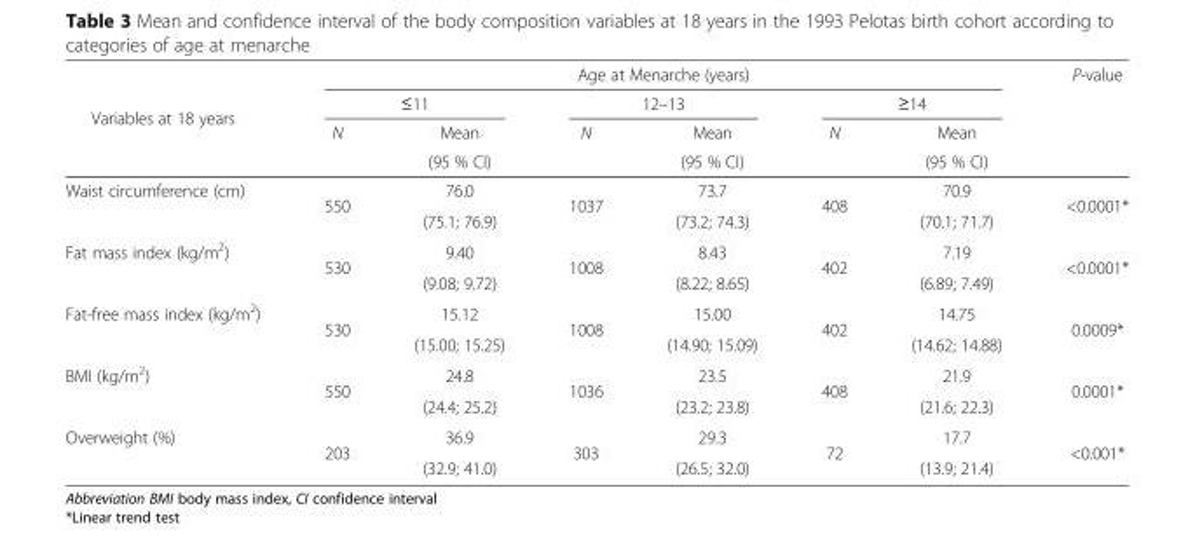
<table><thead><tr><td rowspan="4">Variables at 18 years</td><td colspan="6">Age at Menarche (years)</td><td rowspan="4">P-value</td></tr><tr><td colspan="2">≤11</td><td colspan="2">12–13</td><td colspan="2">≥14</td></tr><tr><td rowspan="2">N</td><td rowspan="2">Mean (95 % CI)</td><td rowspan="2">N</td><td rowspan="2">Mean (95 % CI)</td><td rowspan="2">N</td><td rowspan="2">Mean (95 % CI)</td></tr><tr></tr></thead><tbody><tr><td rowspan="2">Waist circumference (cm)</td><td rowspan="2">550</td><td>76.0</td><td rowspan="2">1037</td><td>73.7</td><td rowspan="2">408</td><td>70.9</td><td rowspan="2">&lt;0.0001*</td></tr><tr><td>(75.1; 76.9)</td><td>(73.2; 74.3)</td><td>(70.1; 71.7)</td></tr><tr><td rowspan="2">Fat mass index (kg/m<sup>2</sup>)</td><td rowspan="2">530</td><td>9.40</td><td rowspan="2">1008</td><td>8.43</td><td rowspan="2">402</td><td>7.19</td><td rowspan="2">&lt;0.0001*</td></tr><tr><td>(9.08; 9.72)</td><td>(8.22; 8.65)</td><td>(6.89; 7.49)</td></tr><tr><td rowspan="2">Fat-free mass index (kg/m<sup>2</sup>)</td><td rowspan="2">530</td><td>15.12</td><td rowspan="2">1008</td><td>15.00</td><td rowspan="2">402</td><td>14.75</td><td rowspan="2">0.0009*</td></tr><tr><td>(15.00; 15.25)</td><td>(14.90; 15.09)</td><td>(14.62; 14.88)</td></tr><tr><td rowspan="2">BMI (kg/m<sup>2</sup>)</td><td rowspan="2">550</td><td>24.8</td><td rowspan="2">1036</td><td>23.5</td><td rowspan="2">408</td><td>21.9</td><td rowspan="2">0.0001*</td></tr><tr><td>(24.4; 25.2)</td><td>(23.2; 23.8)</td><td>(21.6; 22.3)</td></tr><tr><td rowspan="2">Overweight (%)</td><td rowspan="2">203</td><td>36.9</td><td rowspan="2">303</td><td>29.3</td><td rowspan="2">72</td><td>17.7</td><td rowspan="2">&lt;0.001*</td></tr><tr><td>(32.9; 41.0)</td><td>(26.5; 32.0)</td><td>(13.9; 21.4)</td></tr></tbody></table>